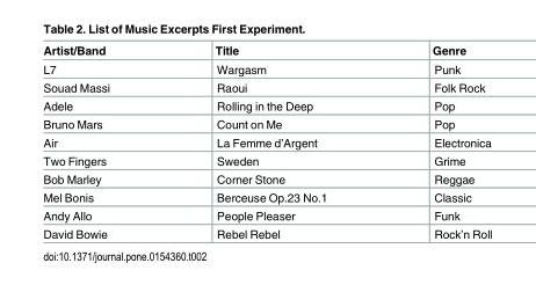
<table><thead><tr><td>Artist/Band</td><td>Title</td><td>Genre</td></tr></thead><tbody><tr><td>L7</td><td>Wargasm</td><td>Punk</td></tr><tr><td>Souad Massi</td><td>Raoui</td><td>Folk Rock</td></tr><tr><td>Adele</td><td>Rolling in the Deep</td><td>Pop</td></tr><tr><td>Bruno Mars</td><td>Count on Me</td><td>Pop</td></tr><tr><td>Air</td><td>La Femme d’Argent</td><td>Electronica</td></tr><tr><td>Two Fingers</td><td>Sweden</td><td>Grime</td></tr><tr><td>Bob Marley</td><td>Corner Stone</td><td>Reggae</td></tr><tr><td>Mel Bonis</td><td>Berceuse Op.23 No.1</td><td>Classic</td></tr><tr><td>Andy Allo</td><td>People Pleaser</td><td>Funk</td></tr><tr><td>David Bowie</td><td>Rebel Rebel</td><td>Rock’n Roll</td></tr></tbody></table>